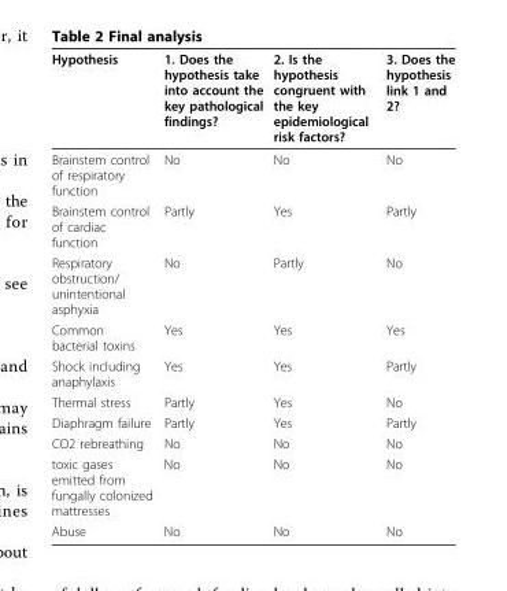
<table><thead><tr><td>Hypothesis</td><td>1. Does the hypothesis take into account the key pathological findings?</td><td>2. Is the hypothesis congruent with the key epidemiological risk factors?</td><td>3. Does the hypothesis link 1 and 2?</td></tr></thead><tbody><tr><td>Brainstem control of respiratory function</td><td>No</td><td>No</td><td>No</td></tr><tr><td>Brainstem control of cardiac function</td><td>Partly</td><td>Yes</td><td>Partly</td></tr><tr><td>Respiratory obstruction/ unintentional asphyxia</td><td>No</td><td>Partly</td><td>No</td></tr><tr><td>Common bacterial toxins</td><td>Yes</td><td>Yes</td><td>Yes</td></tr><tr><td>Shock including anaphylaxis</td><td>Yes</td><td>Yes</td><td>Partly</td></tr><tr><td>Thermal stress</td><td>Partly</td><td>Yes</td><td>No</td></tr><tr><td>Diaphragm failure</td><td>Partly</td><td>Yes</td><td>Partly</td></tr><tr><td>CO2 rebreathing</td><td>No</td><td>No</td><td>No</td></tr><tr><td>toxic gases emitted from fungally colonized mattresses</td><td>No</td><td>No</td><td>No</td></tr><tr><td>Abuse</td><td>No</td><td>No</td><td>No</td></tr></tbody></table>